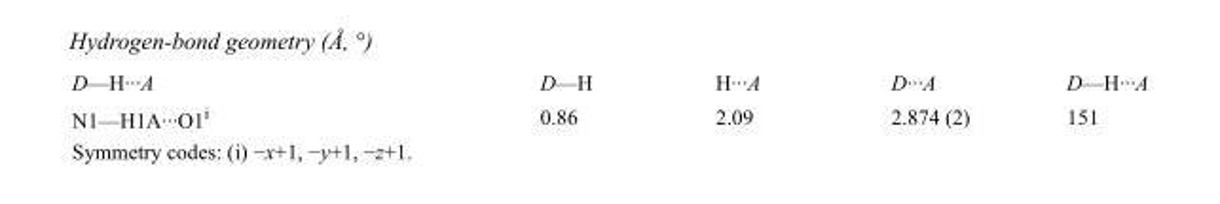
<table><tbody><tr><td>D—H···A</td><td>D—H</td><td>H···A</td><td>D···A</td><td>D—H···A</td></tr><tr><td>N1—H1A···O1<sup>i</sup></td><td>0.86</td><td>2.09</td><td>2.874 (2)</td><td>151</td></tr></tbody></table>